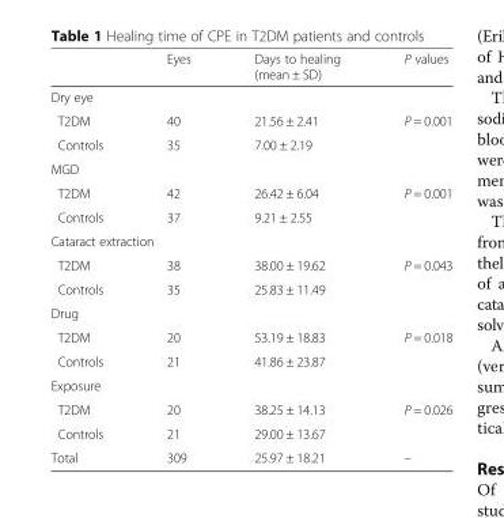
<table><thead><tr><td></td><td>Eyes</td><td>Days to healing (mean ± SD)</td><td>P values</td></tr></thead><tbody><tr><td colspan="4">Dry eye</td></tr><tr><td>T2DM</td><td>40</td><td>21.56 ± 2.41</td><td rowspan="2">P = 0.001</td></tr><tr><td>Controls</td><td>35</td><td>7.00 ± 2.19</td></tr><tr><td colspan="4">MGD</td></tr><tr><td>T2DM</td><td>42</td><td>26.42 ± 6.04</td><td rowspan="2">P = 0.001</td></tr><tr><td>Controls</td><td>37</td><td>9.21 ± 2.55</td></tr><tr><td colspan="4">Cataract extraction</td></tr><tr><td>T2DM</td><td>38</td><td>38.00 ± 19.62</td><td rowspan="2">P = 0.043</td></tr><tr><td>Controls</td><td>35</td><td>25.83 ± 11.49</td></tr><tr><td colspan="4">Drug</td></tr><tr><td>T2DM</td><td>20</td><td>53.19 ± 18.83</td><td rowspan="2">P = 0.018</td></tr><tr><td>Controls</td><td>21</td><td>41.86 ± 23.87</td></tr><tr><td colspan="4">Exposure</td></tr><tr><td>T2DM</td><td>20</td><td>38.25 ± 14.13</td><td rowspan="2">P = 0.026</td></tr><tr><td>Controls</td><td>21</td><td>29.00 ± 13.67</td></tr><tr><td>Total</td><td>309</td><td>25.97 ± 18.21</td><td>–</td></tr></tbody></table>